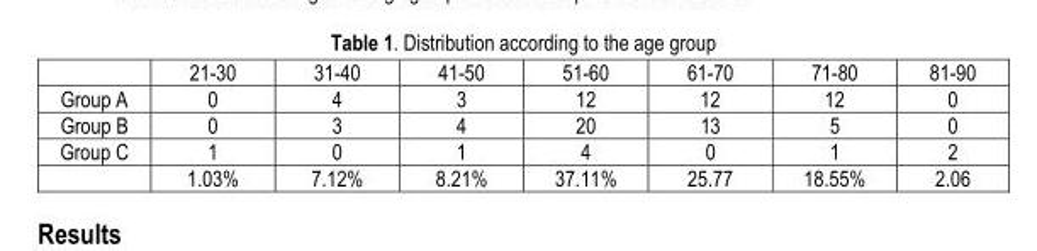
<table><thead><tr><td></td><td>21-30</td><td>31-40</td><td>41-50</td><td>51-60</td><td>61-70</td><td>71-80</td><td>81-90</td></tr></thead><tbody><tr><td>Group A</td><td>0</td><td>4</td><td>3</td><td>12</td><td>12</td><td>12</td><td>0</td></tr><tr><td>Group B</td><td>0</td><td>3</td><td>4</td><td>20</td><td>13</td><td>5</td><td>0</td></tr><tr><td rowspan="2">Group C</td><td>1</td><td>0</td><td>1</td><td>4</td><td>0</td><td>1</td><td>2</td></tr><tr><td>1.03%</td><td>7.12%</td><td>8.21%</td><td>37.11%</td><td>25.77</td><td>18.55%</td><td>2.06</td></tr></tbody></table>